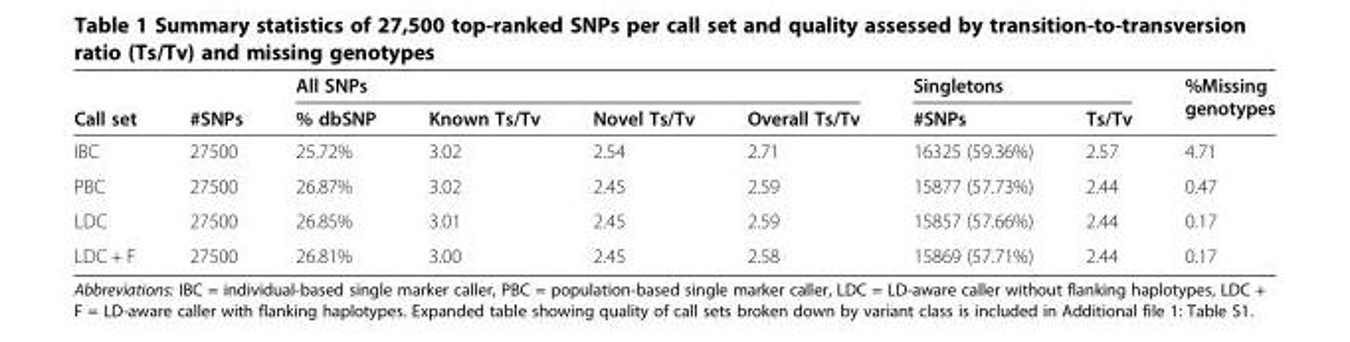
<table><thead><tr><td rowspan="2">Call set</td><td rowspan="2">#SNPs</td><td colspan="4">All SNPs</td><td colspan="2">Singletons</td><td rowspan="2">%Missing genotypes</td></tr><tr><td>% dbSNP</td><td>Known Ts/Tv</td><td>Novel Ts/Tv</td><td>Overall Ts/Tv</td><td>#SNPs</td><td>Ts/Tv</td></tr></thead><tbody><tr><td>IBC</td><td>27500</td><td>25.72%</td><td>3.02</td><td>2.54</td><td>2.71</td><td>16325 (59.36%)</td><td>2.57</td><td>4.71</td></tr><tr><td>PBC</td><td>27500</td><td>26.87%</td><td>3.02</td><td>2.45</td><td>2.59</td><td>15877 (57.73%)</td><td>2.44</td><td>0.47</td></tr><tr><td>LDC</td><td>27500</td><td>26.85%</td><td>3.01</td><td>2.45</td><td>2.59</td><td>15857 (57.66%)</td><td>2.44</td><td>0.17</td></tr><tr><td>LDC + F</td><td>27500</td><td>26.81%</td><td>3.00</td><td>2.45</td><td>2.58</td><td>15869 (57.71%)</td><td>2.44</td><td>0.17</td></tr></tbody></table>